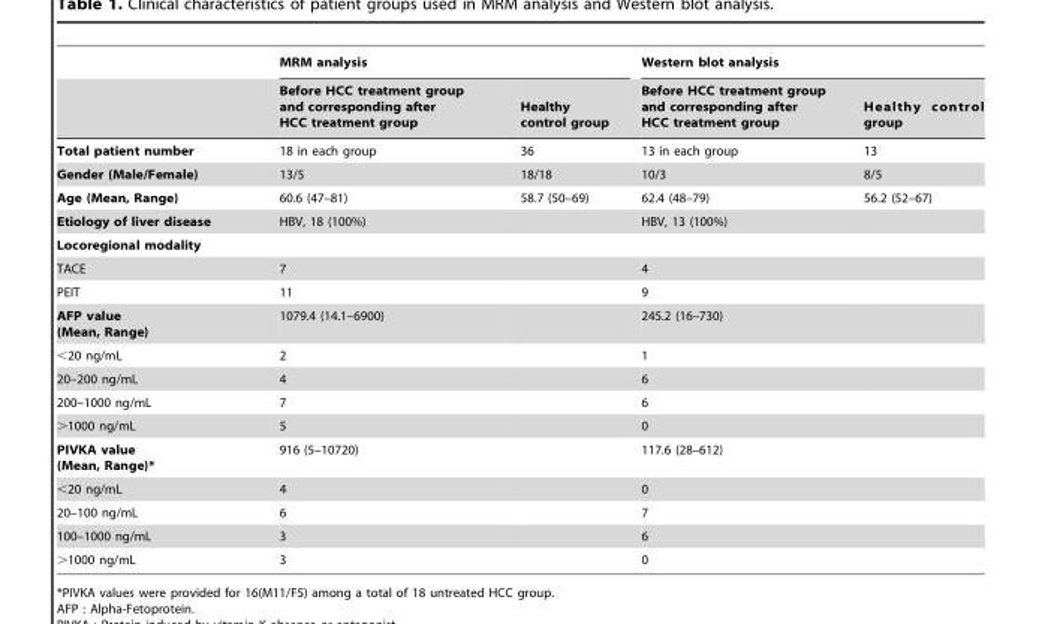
<table><thead><tr><td rowspan="2"></td><td colspan="2">MRM analysis</td><td colspan="2">Western blot analysis</td></tr><tr><td>Before HCC treatment group and corresponding after HCC treatment group</td><td>Healthy control group</td><td>Before HCC treatment group and corresponding after HCC treatment group</td><td>Healthy control group</td></tr></thead><tbody><tr><td>Total patient number</td><td>18 in each group</td><td>36</td><td>13 in each group</td><td>13</td></tr><tr><td>Gender (Male/Female)</td><td>13/5</td><td>18/18</td><td>10/3</td><td>8/5</td></tr><tr><td>Age (Mean, Range)</td><td>60.6 (47–81)</td><td>58.7 (50–69)</td><td>62.4 (48–79)</td><td>56.2 (52–67)</td></tr><tr><td>Etiology of liver disease</td><td>HBV, 18 (100%)</td><td></td><td>HBV, 13 (100%)</td><td></td></tr><tr><td colspan="5">Locoregional modality</td></tr><tr><td>TACE</td><td>7</td><td></td><td>4</td><td></td></tr><tr><td>PEIT</td><td>11</td><td></td><td>9</td><td></td></tr><tr><td>AFP value (Mean, Range)</td><td>1079.4 (14.1–6900)</td><td></td><td>245.2 (16–730)</td><td></td></tr><tr><td>&lt;20 ng/mL</td><td>2</td><td></td><td>1</td><td></td></tr><tr><td>20–200 ng/mL</td><td>4</td><td></td><td>6</td><td></td></tr><tr><td>200–1000 ng/mL</td><td>7</td><td></td><td>6</td><td></td></tr><tr><td>&gt;1000 ng/mL</td><td>5</td><td></td><td>0</td><td></td></tr><tr><td>PIVKA value (Mean, Range)*</td><td>916 (5–10720)</td><td></td><td>117.6 (28–612)</td><td></td></tr><tr><td>&lt;20 ng/mL</td><td>4</td><td></td><td>0</td><td></td></tr><tr><td>20–100 ng/mL</td><td>6</td><td></td><td>7</td><td></td></tr><tr><td>100–1000 ng/mL</td><td>3</td><td></td><td>6</td><td></td></tr><tr><td>&gt;1000 ng/mL</td><td>3</td><td></td><td>0</td><td></td></tr></tbody></table>